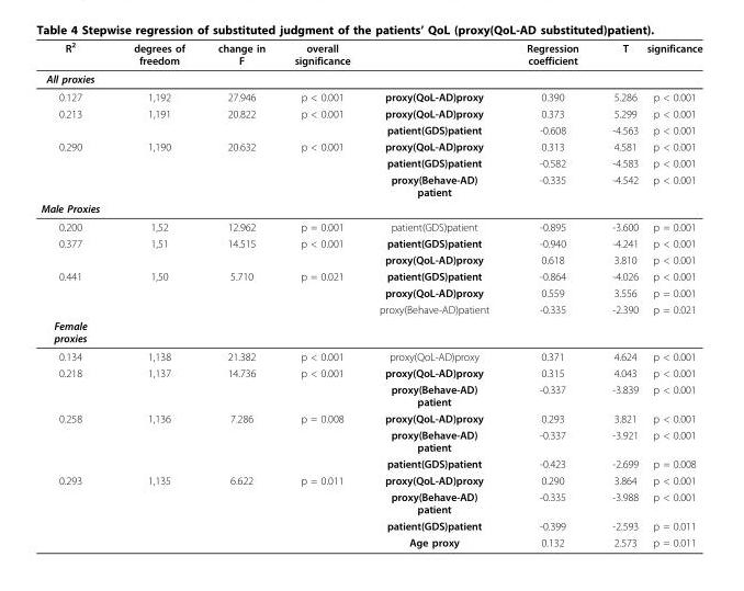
<table><thead><tr><td>R<sup>2</sup></td><td>degrees of freedom</td><td>change in F</td><td>overall significance</td><td></td><td>Regression coefficient</td><td>T</td><td>significance</td></tr></thead><tbody><tr><td colspan="8">All proxies</td></tr><tr><td>0.127</td><td>1,192</td><td>27.946</td><td>p &lt; 0.001</td><td>proxy(QoL-AD)proxy</td><td>0.390</td><td>5.286</td><td>p &lt; 0.001</td></tr><tr><td rowspan="2">0.213</td><td>1,191</td><td>20.822</td><td>p &lt; 0.001</td><td>proxy(QoL-AD)proxy</td><td>0.373</td><td>5.299</td><td>p &lt; 0.001</td></tr><tr><td></td><td></td><td></td><td>patient(GDS)patient</td><td>-0.608</td><td>-4.563</td><td>p &lt; 0.001</td></tr><tr><td rowspan="3">0.290</td><td>1,190</td><td>20.632</td><td>p &lt; 0.001</td><td>proxy(QoL-AD)proxy</td><td>0.313</td><td>4.581</td><td>p &lt; 0.001</td></tr><tr><td></td><td></td><td></td><td>patient(GDS)patient</td><td>-0.582</td><td>-4.583</td><td>p &lt; 0.001</td></tr><tr><td></td><td></td><td></td><td>proxy(Behave-AD) patient</td><td>-0.335</td><td>-4.542</td><td>p &lt; 0.001</td></tr><tr><td colspan="8">Male Proxies</td></tr><tr><td>0.200</td><td>1,52</td><td>12.962</td><td>p = 0.001</td><td>patient(GDS)patient</td><td>-0.895</td><td>-3.600</td><td>p = 0.001</td></tr><tr><td rowspan="2">0.377</td><td>1,51</td><td>14.515</td><td>p &lt; 0.001</td><td>patient(GDS)patient</td><td>-0.940</td><td>-4.241</td><td>p &lt; 0.001</td></tr><tr><td></td><td></td><td></td><td>proxy(QoL-AD)proxy</td><td>0.618</td><td>3.810</td><td>p &lt; 0.001</td></tr><tr><td rowspan="3">0.441</td><td>1,50</td><td>5.710</td><td>p = 0.021</td><td>patient(GDS)patient</td><td>-0.864</td><td>-4.026</td><td>p &lt; 0.001</td></tr><tr><td></td><td></td><td></td><td>proxy(QoL-AD)proxy</td><td>0.559</td><td>3.556</td><td>p = 0.001</td></tr><tr><td></td><td></td><td></td><td>proxy(Behave-AD)patient</td><td>-0.335</td><td>-2.390</td><td>p = 0.021</td></tr><tr><td colspan="8">Female proxies</td></tr><tr><td>0.134</td><td>1,138</td><td>21.382</td><td>p &lt; 0.001</td><td>proxy(QoL-AD)proxy</td><td>0.371</td><td>4.624</td><td>p &lt; 0.001</td></tr><tr><td rowspan="2">0.218</td><td>1,137</td><td>14.736</td><td>p &lt; 0.001</td><td>proxy(QoL-AD)proxy</td><td>0.315</td><td>4.043</td><td>p &lt; 0.001</td></tr><tr><td></td><td></td><td></td><td>proxy(Behave-AD) patient</td><td>-0.337</td><td>-3.839</td><td>p &lt; 0.001</td></tr><tr><td rowspan="3">0.258</td><td>1,136</td><td>7.286</td><td>p = 0.008</td><td>proxy(QoL-AD)proxy</td><td>0.293</td><td>3.821</td><td>p &lt; 0.001</td></tr><tr><td></td><td></td><td></td><td>proxy(Behave-AD) patient</td><td>-0.337</td><td>-3.921</td><td>p &lt; 0.001</td></tr><tr><td></td><td></td><td></td><td>patient(GDS)patient</td><td>-0.423</td><td>-2.699</td><td>p = 0.008</td></tr><tr><td rowspan="4">0.293</td><td>1,135</td><td>6.622</td><td>p = 0.011</td><td>proxy(QoL-AD)proxy</td><td>0.290</td><td>3.864</td><td>p &lt; 0.001</td></tr><tr><td></td><td></td><td></td><td>proxy(Behave-AD) patient</td><td>-0.335</td><td>-3.988</td><td>p &lt; 0.001</td></tr><tr><td></td><td></td><td></td><td>patient(GDS)patient</td><td>-0.399</td><td>-2.593</td><td>p = 0.011</td></tr><tr><td></td><td></td><td></td><td>Age proxy</td><td>0.132</td><td>2.573</td><td>p = 0.011</td></tr></tbody></table>